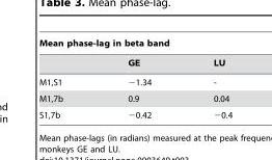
<table><thead><tr><td colspan="3">Mean phase-lag in beta band</td></tr><tr><td></td><td>GE</td><td>LU</td></tr></thead><tbody><tr><td>M1,S1</td><td>−1.34</td><td>-</td></tr><tr><td>M1,7b</td><td>0.9</td><td>0.04</td></tr><tr><td>S1,7b</td><td>−0.42</td><td>−0.4</td></tr></tbody></table>